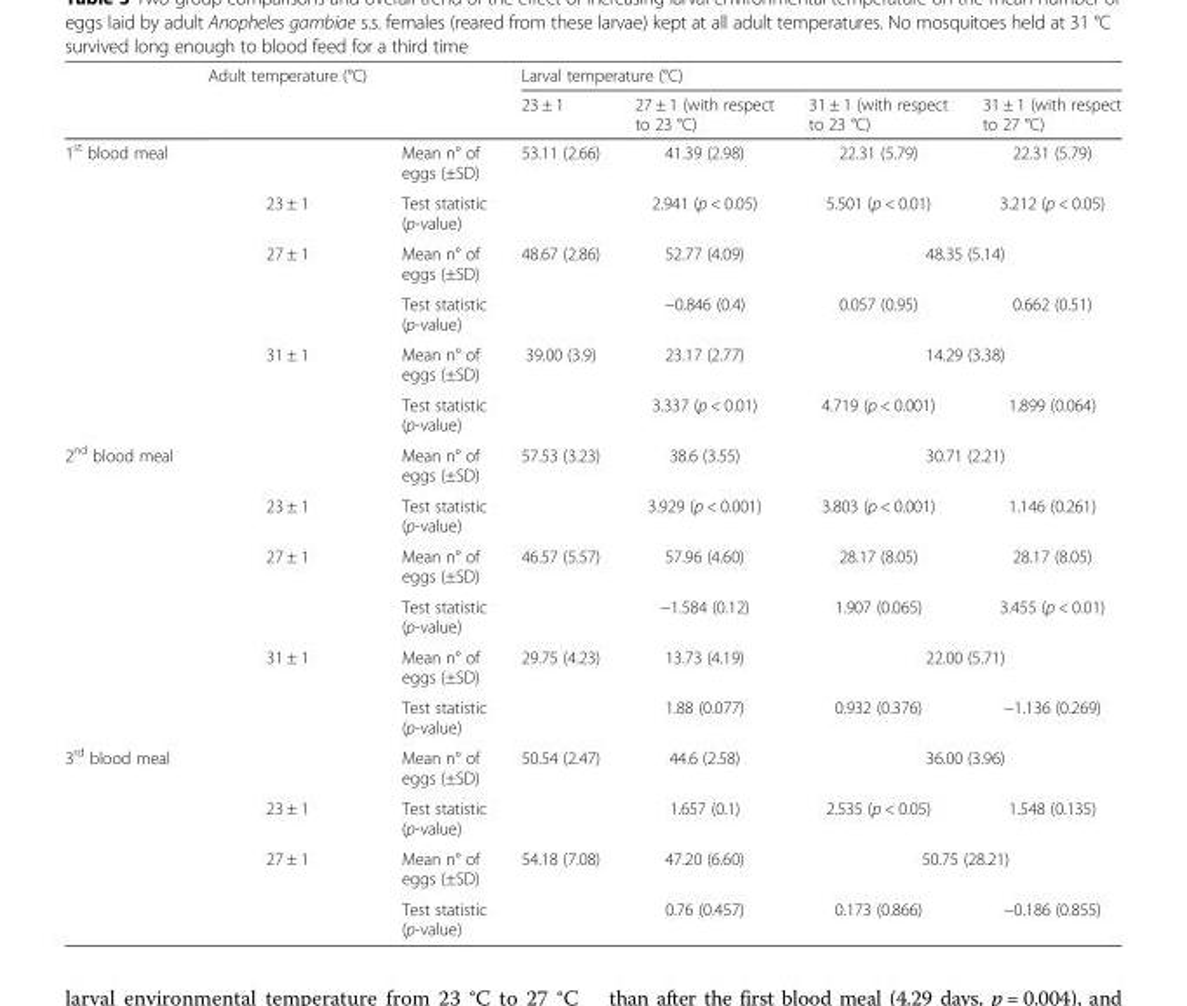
<table><thead><tr><td rowspan="2"></td><td rowspan="2">Adult temperature (°C)</td><td rowspan="2"></td><td colspan="4">Larval temperature (°C)</td></tr><tr><td>23 ± 1</td><td>27 ± 1 (with respect to 23 °C)</td><td>31 ± 1 (with respect to 23 °C)</td><td>31 ± 1 (with respect to 27 °C)</td></tr></thead><tbody><tr><td rowspan="6">1<sup>st</sup> blood meal</td><td></td><td>Mean n° of eggs (±SD)</td><td>53.11 (2.66)</td><td>41.39 (2.98)</td><td>22.31 (5.79)</td><td>22.31 (5.79)</td></tr><tr><td>23 ± 1</td><td>Test statistic (p-value)</td><td></td><td>2.941 (p &lt; 0.05)</td><td>5.501 (p &lt; 0.01)</td><td>3.212 (p &lt; 0.05)</td></tr><tr><td rowspan="2">27 ± 1</td><td>Mean n° of eggs (±SD)</td><td>48.67 (2.86)</td><td>52.77 (4.09)</td><td colspan="2">48.35 (5.14)</td></tr><tr><td>Test statistic (p-value)</td><td></td><td>−0.846 (0.4)</td><td>0.057 (0.95)</td><td>0.662 (0.51)</td></tr><tr><td rowspan="2">31 ± 1</td><td>Mean n° of eggs (±SD)</td><td>39.00 (3.9)</td><td>23.17 (2.77)</td><td colspan="2">14.29 (3.38)</td></tr><tr><td>Test statistic (p-value)</td><td></td><td>3.337 (p &lt; 0.01)</td><td>4.719 (p &lt; 0.001)</td><td>1.899 (0.064)</td></tr><tr><td rowspan="6">2<sup>nd</sup> blood meal</td><td></td><td>Mean n° of eggs (±SD)</td><td>57.53 (3.23)</td><td>38.6 (3.55)</td><td colspan="2">30.71 (2.21)</td></tr><tr><td>23 ± 1</td><td>Test statistic (p-value)</td><td></td><td>3.929 (p &lt; 0.001)</td><td>3.803 (p &lt; 0.001)</td><td>1.146 (0.261)</td></tr><tr><td rowspan="2">27 ± 1</td><td>Mean n° of eggs (±SD)</td><td>46.57 (5.57)</td><td>57.96 (4.60)</td><td>28.17 (8.05)</td><td>28.17 (8.05)</td></tr><tr><td>Test statistic (p-value)</td><td></td><td>−1.584 (0.12)</td><td>1.907 (0.065)</td><td>3.455 (p &lt; 0.01)</td></tr><tr><td rowspan="2">31 ± 1</td><td>Mean n° of eggs (±SD)</td><td>29.75 (4.23)</td><td>13.73 (4.19)</td><td colspan="2">22.00 (5.71)</td></tr><tr><td>Test statistic (p-value)</td><td></td><td>1.88 (0.077)</td><td>0.932 (0.376)</td><td>−1.136 (0.269)</td></tr><tr><td rowspan="4">3<sup>rd</sup> blood meal</td><td></td><td>Mean n° of eggs (±SD)</td><td>50.54 (2.47)</td><td>44.6 (2.58)</td><td colspan="2">36.00 (3.96)</td></tr><tr><td>23 ± 1</td><td>Test statistic (p-value)</td><td></td><td>1.657 (0.1)</td><td>2.535 (p &lt; 0.05)</td><td>1.548 (0.135)</td></tr><tr><td rowspan="2">27 ± 1</td><td>Mean n° of eggs (±SD)</td><td>54.18 (7.08)</td><td>47.20 (6.60)</td><td colspan="2">50.75 (28.21)</td></tr><tr><td>Test statistic (p-value)</td><td></td><td>0.76 (0.457)</td><td>0.173 (0.866)</td><td>−0.186 (0.855)</td></tr></tbody></table>